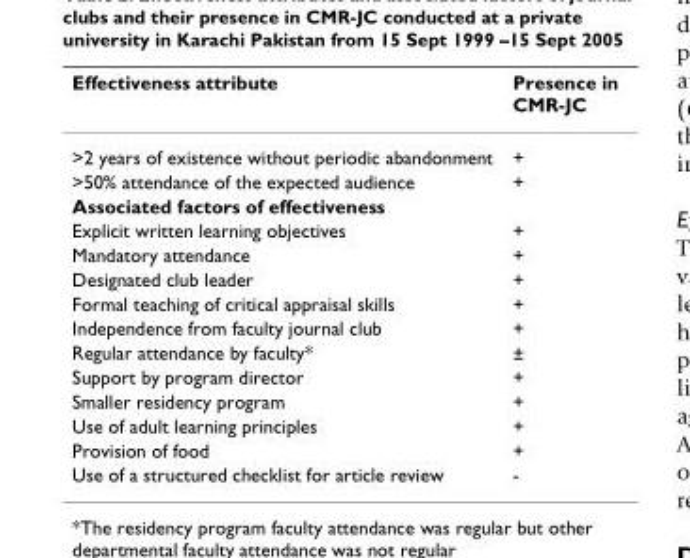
<table><thead><tr><td>Effectiveness attribute</td><td>Presence in CMR-JC</td></tr></thead><tbody><tr><td>&gt;2 years of existence without periodic abandonment</td><td>+</td></tr><tr><td>&gt;50% attendance of the expected audience</td><td>+</td></tr><tr><td colspan="2">Associated factors of effectiveness</td></tr><tr><td>Explicit written learning objectives</td><td>+</td></tr><tr><td>Mandatory attendance</td><td>+</td></tr><tr><td>Designated club leader</td><td>+</td></tr><tr><td>Formal teaching of critical appraisal skills</td><td>+</td></tr><tr><td>Independence from faculty journal club</td><td>+</td></tr><tr><td>Regular attendance by faculty*</td><td>±</td></tr><tr><td>Support by program director</td><td>+</td></tr><tr><td>Smaller residency program</td><td>+</td></tr><tr><td>Use of adult learning principles</td><td>+</td></tr><tr><td>Provision of food</td><td>+</td></tr><tr><td>Use of a structured checklist for article review</td><td>-</td></tr></tbody></table>